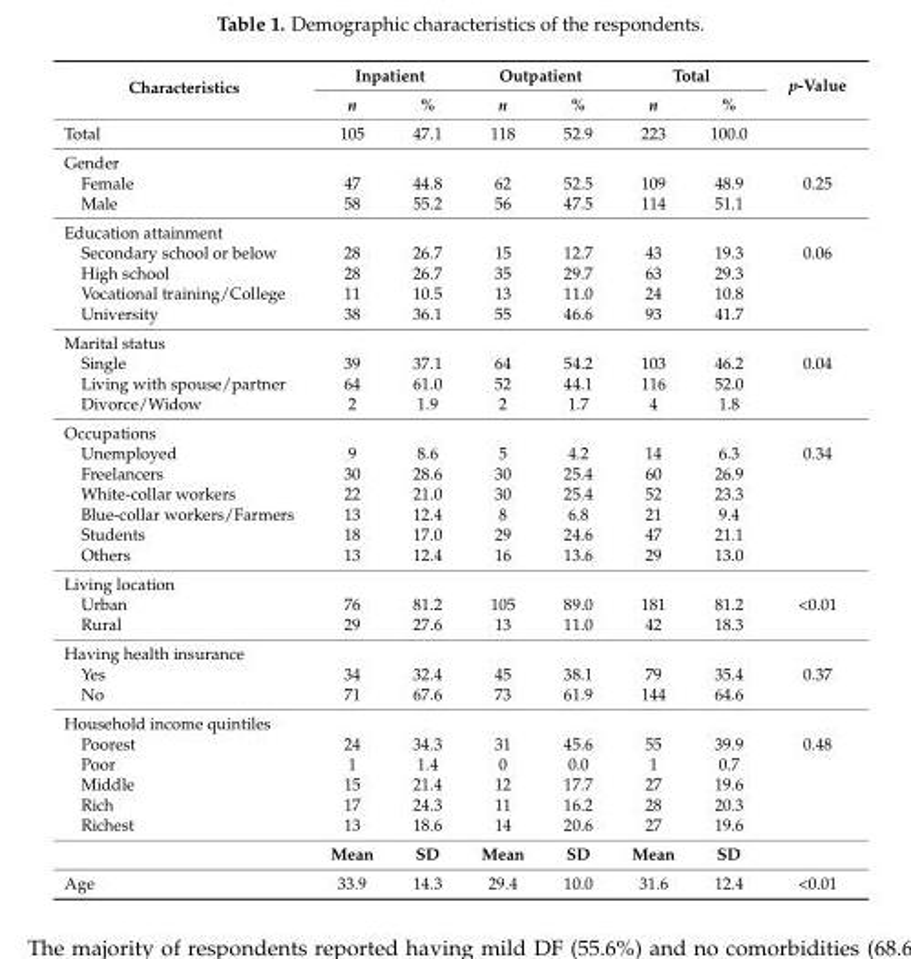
<table><thead><tr><td rowspan="2">Characteristics</td><td colspan="2">Inpatient</td><td colspan="2">Outpatient</td><td colspan="2">Total</td><td rowspan="2">p-Value</td></tr><tr><td>n</td><td>%</td><td>n</td><td>%</td><td>n</td><td>%</td></tr></thead><tbody><tr><td>Total</td><td>105</td><td>47.1</td><td>118</td><td>52.9</td><td>223</td><td>100.0</td><td></td></tr><tr><td colspan="8">Gender</td></tr><tr><td>Female</td><td>47</td><td>44.8</td><td>62</td><td>52.5</td><td>109</td><td>48.9</td><td>0.25</td></tr><tr><td>Male</td><td>58</td><td>55.2</td><td>56</td><td>47.5</td><td>114</td><td>51.1</td><td></td></tr><tr><td colspan="8">Education attainment</td></tr><tr><td>Secondary school or below</td><td>28</td><td>26.7</td><td>15</td><td>12.7</td><td>43</td><td>19.3</td><td>0.06</td></tr><tr><td>High school</td><td>28</td><td>26.7</td><td>35</td><td>29.7</td><td>63</td><td>29.3</td><td></td></tr><tr><td>Vocational training/College</td><td>11</td><td>10.5</td><td>13</td><td>11.0</td><td>24</td><td>10.8</td><td></td></tr><tr><td>University</td><td>38</td><td>36.1</td><td>55</td><td>46.6</td><td>93</td><td>41.7</td><td></td></tr><tr><td colspan="8">Marital status</td></tr><tr><td>Single</td><td>39</td><td>37.1</td><td>64</td><td>54.2</td><td>103</td><td>46.2</td><td>0.04</td></tr><tr><td>Living with spouse/partner</td><td>64</td><td>61.0</td><td>52</td><td>44.1</td><td>116</td><td>52.0</td><td></td></tr><tr><td>Divorce/Widow</td><td>2</td><td>1.9</td><td>2</td><td>1.7</td><td>4</td><td>1.8</td><td></td></tr><tr><td colspan="8">Occupations</td></tr><tr><td>Unemployed</td><td>9</td><td>8.6</td><td>5</td><td>4.2</td><td>14</td><td>6.3</td><td>0.34</td></tr><tr><td>Freelancers</td><td>30</td><td>28.6</td><td>30</td><td>25.4</td><td>60</td><td>26.9</td><td></td></tr><tr><td>White-collar workers</td><td>22</td><td>21.0</td><td>30</td><td>25.4</td><td>52</td><td>23.3</td><td></td></tr><tr><td>Blue-collar workers/Farmers</td><td>13</td><td>12.4</td><td>8</td><td>6.8</td><td>21</td><td>9.4</td><td></td></tr><tr><td>Students</td><td>18</td><td>17.0</td><td>29</td><td>24.6</td><td>47</td><td>21.1</td><td></td></tr><tr><td>Others</td><td>13</td><td>12.4</td><td>16</td><td>13.6</td><td>29</td><td>13.0</td><td></td></tr><tr><td colspan="8">Living location</td></tr><tr><td>Urban</td><td>76</td><td>81.2</td><td>105</td><td>89.0</td><td>181</td><td>81.2</td><td>&lt;0.01</td></tr><tr><td>Rural</td><td>29</td><td>27.6</td><td>13</td><td>11.0</td><td>42</td><td>18.3</td><td></td></tr><tr><td colspan="8">Having health insurance</td></tr><tr><td>Yes</td><td>34</td><td>32.4</td><td>45</td><td>38.1</td><td>79</td><td>35.4</td><td>0.37</td></tr><tr><td>No</td><td>71</td><td>67.6</td><td>73</td><td>61.9</td><td>144</td><td>64.6</td><td></td></tr><tr><td colspan="8">Household income quintiles</td></tr><tr><td>Poorest</td><td>24</td><td>34.3</td><td>31</td><td>45.6</td><td>55</td><td>39.9</td><td>0.48</td></tr><tr><td>Poor</td><td>1</td><td>1.4</td><td>0</td><td>0.0</td><td>1</td><td>0.7</td><td></td></tr><tr><td>Middle</td><td>15</td><td>21.4</td><td>12</td><td>17.7</td><td>27</td><td>19.6</td><td></td></tr><tr><td>Rich</td><td>17</td><td>24.3</td><td>11</td><td>16.2</td><td>28</td><td>20.3</td><td></td></tr><tr><td rowspan="2">Richest</td><td>13</td><td>18.6</td><td>14</td><td>20.6</td><td>27</td><td>19.6</td><td></td></tr><tr><td>Mean</td><td>SD</td><td>Mean</td><td>SD</td><td>Mean</td><td>SD</td><td></td></tr><tr><td>Age</td><td>33.9</td><td>14.3</td><td>29.4</td><td>10.0</td><td>31.6</td><td>12.4</td><td>&lt;0.01</td></tr></tbody></table>